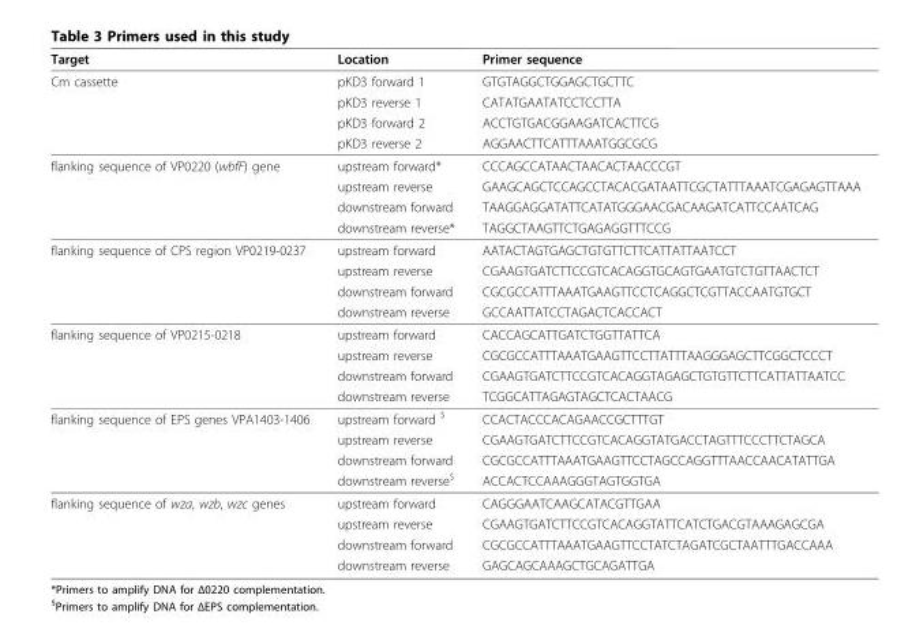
<table><thead><tr><td>Target</td><td>Location</td><td>Primer sequence</td></tr></thead><tbody><tr><td rowspan="4">Cm cassette</td><td>pKD3 forward 1</td><td>GTGTAGGCTGGAGCTGCTTC</td></tr><tr><td>pKD3 reverse 1</td><td>CATATGAATATCCTCCTTA</td></tr><tr><td>pKD3 forward 2</td><td>ACCTGTGACGGAAGATCACTTCG</td></tr><tr><td>pKD3 reverse 2</td><td>AGGAACTTCATTTAAATGGCGCG</td></tr><tr><td rowspan="4">flanking sequence of VP0220 (wbfF) gene</td><td>upstream forward*</td><td>CCCAGCCATAACTAACACTAACCCGT</td></tr><tr><td>upstream reverse</td><td>GAAGCAGCTCCAGCCTACACGATAATTCGCTATTTAAATCGAGAGTTAAA</td></tr><tr><td>downstream forward</td><td>TAAGGAGGATATTCATATGGGAACGACAAGATCATTCCAATCAG</td></tr><tr><td>downstream reverse*</td><td>TAGGCTAAGTTCTGAGAGGTTTCCG</td></tr><tr><td rowspan="4">flanking sequence of CPS region VP0219-0237</td><td>upstream forward</td><td>AATACTAGTGAGCTGTGTTCTTCATTATTAATCCT</td></tr><tr><td>upstream reverse</td><td>CGAAGTGATCTTCCGTCACAGGTGCAGTGAATGTCTGTTAACTCT</td></tr><tr><td>downstream forward</td><td>CGCGCCATTTAAATGAAGTTCCTCAGGCTCGTTACCAATGTGCT</td></tr><tr><td>downstream reverse</td><td>GCCAATTATCCTAGACTCACCACT</td></tr><tr><td rowspan="4">flanking sequence of VP0215-0218</td><td>upstream forward</td><td>CACCAGCATTGATCTGGTTATTCA</td></tr><tr><td>upstream reverse</td><td>CGCGCCATTTAAATGAAGTTCCTTATTTAAGGGAGCTTCGGCTCCCT</td></tr><tr><td>downstream forward</td><td>CGAAGTGATCTTCCGTCACAGGTAGAGCTGTGTTCTTCATTATTAATCC</td></tr><tr><td>downstream reverse</td><td>TCGGCATTAGAGTAGCTCACTAACG</td></tr><tr><td rowspan="4">flanking sequence of EPS genes VPA1403-1406</td><td>upstream forward <sup>$</sup></td><td>CCACTACCCACAGAACCGCTTTGT</td></tr><tr><td>upstream reverse</td><td>CGAAGTGATCTTCCGTCACAGGTATGACCTAGTTTCCCTTCTAGCA</td></tr><tr><td>downstream forward</td><td>CGCGCCATTTAAATGAAGTTCCTAGCCAGGTTTAACCAACATATTGA</td></tr><tr><td>downstream reverse<sup>$</sup></td><td>ACCACTCCAAAGGGTAGTGGTGA</td></tr><tr><td rowspan="4">flanking sequence of wza, wzb, wzc genes</td><td>upstream forward</td><td>CAGGGAATCAAGCATACGTTGAA</td></tr><tr><td>upstream reverse</td><td>CGAAGTGATCTTCCGTCACAGGTATTCATCTGACGTAAAGAGCGA</td></tr><tr><td>downstream forward</td><td>CGCGCCATTTAAATGAAGTTCCTATCTAGATCGCTAATTTGACCAAA</td></tr><tr><td>downstream reverse</td><td>GAGCAGCAAAGCTGCAGATTGA</td></tr></tbody></table>